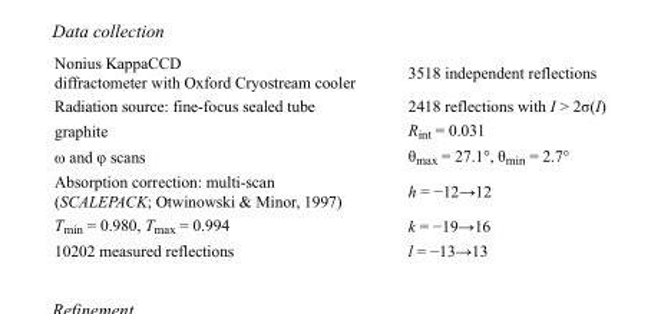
<table><tbody><tr><td>Nonius KappaCCD diffractometer with Oxford Cryostream cooler</td><td>3518 independent reflections</td></tr><tr><td>Radiation source: fine-focus sealed tube</td><td>2418 reflections with I &gt; 2σ(I)</td></tr><tr><td>graphite</td><td>R<sub>int</sub> = 0.031</td></tr><tr><td>ω and φ scans</td><td>θ<sub>max</sub> = 27.1°, θ<sub>min</sub> = 2.7°</td></tr><tr><td>Absorption correction: multi-scan (SCALEPACK; Otwinowski &amp; Minor, 1997)</td><td>h = −12→12</td></tr><tr><td>T<sub>min</sub> = 0.980, T<sub>max</sub> = 0.994</td><td>k = −19→16</td></tr><tr><td>10202 measured reflections</td><td>l = −13→13</td></tr></tbody></table>